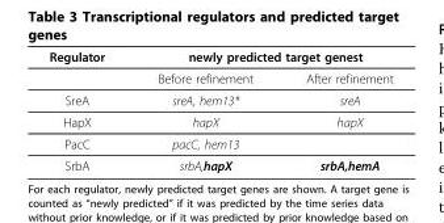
<table><thead><tr><td rowspan="2">Regulator</td><td colspan="2">newly predicted target genest</td></tr><tr><td>Before refinement</td><td>After refinement</td></tr></thead><tbody><tr><td>SreA</td><td>sreA, hem13*</td><td>sreA</td></tr><tr><td>HapX</td><td>hapX</td><td>hapX</td></tr><tr><td>PacC</td><td>pacC, hem13</td><td></td></tr><tr><td>SrbA</td><td>srbA,hapX</td><td>srbA,hemA</td></tr></tbody></table>